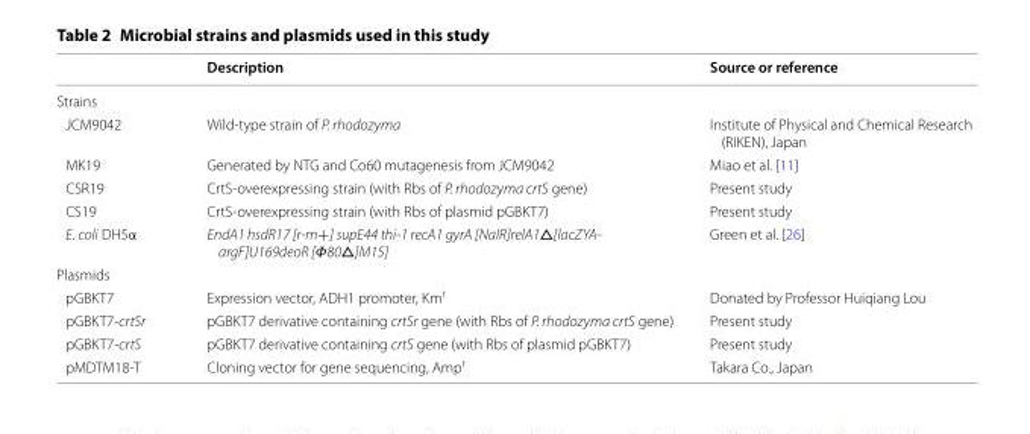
<table><thead><tr><td></td><td>Description</td><td>Source or reference</td></tr></thead><tbody><tr><td colspan="3">Strains</td></tr><tr><td>JCM9042</td><td>Wild-type strain of P. rhodozyma</td><td>Institute of Physical and Chemical Research (RIKEN), Japan</td></tr><tr><td>MK19</td><td>Generated by NTG and Co60 mutagenesis from JCM9042</td><td>Miao et al. [11]</td></tr><tr><td>CSR19</td><td>CrtS-overexpressing strain (with Rbs of P. rhodozyma crtS gene)</td><td>Present study</td></tr><tr><td>CS19</td><td>CrtS-overexpressing strain (with Rbs of plasmid pGBKT7)</td><td>Present study</td></tr><tr><td>E. coli DH5α</td><td>EndA1 hsdR17 [r-m+] supE44 thi-1 recA1 gyrA [NalR]relA1△[lacZYA- argF]U169deoR [Φ80△]M15]</td><td>Green et al. [26]</td></tr><tr><td colspan="3">Plasmids</td></tr><tr><td>pGBKT7</td><td>Expression vector, ADH1 promoter, Km<sup>r</sup></td><td>Donated by Professor Huiqiang Lou</td></tr><tr><td>pGBKT7-crtSr</td><td>pGBKT7 derivative containing crtSr gene (with Rbs of P. rhodozyma crtS gene)</td><td>Present study</td></tr><tr><td>pGBKT7-crtS</td><td>pGBKT7 derivative containing crtS gene (with Rbs of plasmid pGBKT7)</td><td>Present study</td></tr><tr><td>pMDTM18-T</td><td>Cloning vector for gene sequencing, Amp<sup>r</sup></td><td>Takara Co., Japan</td></tr></tbody></table>